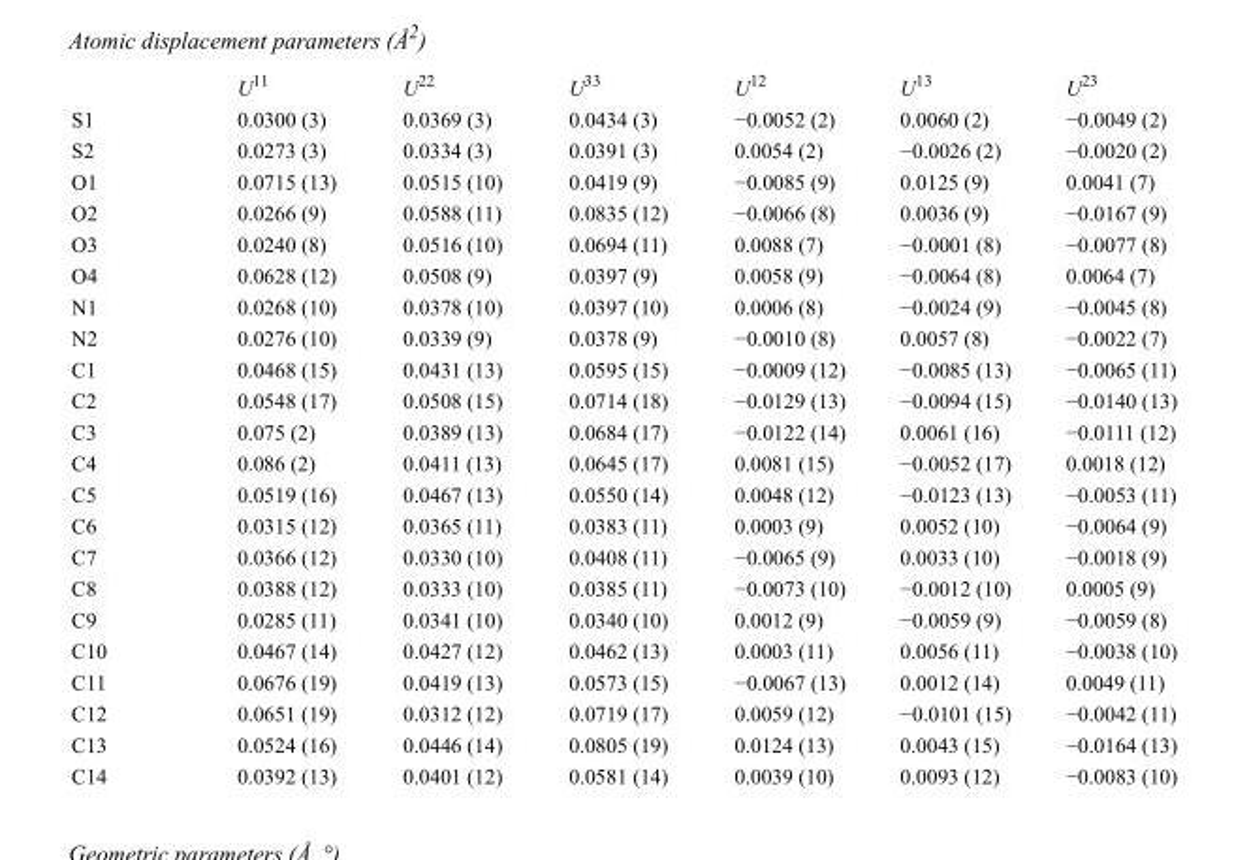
<table><thead><tr><td></td><td>U<sup>11</sup></td><td>U<sup>22</sup></td><td>U<sup>33</sup></td><td>U<sup>12</sup></td><td>U<sup>13</sup></td><td>U<sup>23</sup></td></tr></thead><tbody><tr><td>S1</td><td>0.0300 (3)</td><td>0.0369 (3)</td><td>0.0434 (3)</td><td>−0.0052 (2)</td><td>0.0060 (2)</td><td>−0.0049 (2)</td></tr><tr><td>S2</td><td>0.0273 (3)</td><td>0.0334 (3)</td><td>0.0391 (3)</td><td>0.0054 (2)</td><td>−0.0026 (2)</td><td>−0.0020 (2)</td></tr><tr><td>O1</td><td>0.0715 (13)</td><td>0.0515 (10)</td><td>0.0419 (9)</td><td>−0.0085 (9)</td><td>0.0125 (9)</td><td>0.0041 (7)</td></tr><tr><td>O2</td><td>0.0266 (9)</td><td>0.0588 (11)</td><td>0.0835 (12)</td><td>−0.0066 (8)</td><td>0.0036 (9)</td><td>−0.0167 (9)</td></tr><tr><td>O3</td><td>0.0240 (8)</td><td>0.0516 (10)</td><td>0.0694 (11)</td><td>0.0088 (7)</td><td>−0.0001 (8)</td><td>−0.0077 (8)</td></tr><tr><td>O4</td><td>0.0628 (12)</td><td>0.0508 (9)</td><td>0.0397 (9)</td><td>0.0058 (9)</td><td>−0.0064 (8)</td><td>0.0064 (7)</td></tr><tr><td>N1</td><td>0.0268 (10)</td><td>0.0378 (10)</td><td>0.0397 (10)</td><td>0.0006 (8)</td><td>−0.0024 (9)</td><td>−0.0045 (8)</td></tr><tr><td>N2</td><td>0.0276 (10)</td><td>0.0339 (9)</td><td>0.0378 (9)</td><td>−0.0010 (8)</td><td>0.0057 (8)</td><td>−0.0022 (7)</td></tr><tr><td>C1</td><td>0.0468 (15)</td><td>0.0431 (13)</td><td>0.0595 (15)</td><td>−0.0009 (12)</td><td>−0.0085 (13)</td><td>−0.0065 (11)</td></tr><tr><td>C2</td><td>0.0548 (17)</td><td>0.0508 (15)</td><td>0.0714 (18)</td><td>−0.0129 (13)</td><td>−0.0094 (15)</td><td>−0.0140 (13)</td></tr><tr><td>C3</td><td>0.075 (2)</td><td>0.0389 (13)</td><td>0.0684 (17)</td><td>−0.0122 (14)</td><td>0.0061 (16)</td><td>−0.0111 (12)</td></tr><tr><td>C4</td><td>0.086 (2)</td><td>0.0411 (13)</td><td>0.0645 (17)</td><td>0.0081 (15)</td><td>−0.0052 (17)</td><td>0.0018 (12)</td></tr><tr><td>C5</td><td>0.0519 (16)</td><td>0.0467 (13)</td><td>0.0550 (14)</td><td>0.0048 (12)</td><td>−0.0123 (13)</td><td>−0.0053 (11)</td></tr><tr><td>C6</td><td>0.0315 (12)</td><td>0.0365 (11)</td><td>0.0383 (11)</td><td>0.0003 (9)</td><td>0.0052 (10)</td><td>−0.0064 (9)</td></tr><tr><td>C7</td><td>0.0366 (12)</td><td>0.0330 (10)</td><td>0.0408 (11)</td><td>−0.0065 (9)</td><td>0.0033 (10)</td><td>−0.0018 (9)</td></tr><tr><td>C8</td><td>0.0388 (12)</td><td>0.0333 (10)</td><td>0.0385 (11)</td><td>−0.0073 (10)</td><td>−0.0012 (10)</td><td>0.0005 (9)</td></tr><tr><td>C9</td><td>0.0285 (11)</td><td>0.0341 (10)</td><td>0.0340 (10)</td><td>0.0012 (9)</td><td>−0.0059 (9)</td><td>−0.0059 (8)</td></tr><tr><td>C10</td><td>0.0467 (14)</td><td>0.0427 (12)</td><td>0.0462 (13)</td><td>0.0003 (11)</td><td>0.0056 (11)</td><td>−0.0038 (10)</td></tr><tr><td>C11</td><td>0.0676 (19)</td><td>0.0419 (13)</td><td>0.0573 (15)</td><td>−0.0067 (13)</td><td>0.0012 (14)</td><td>0.0049 (11)</td></tr><tr><td>C12</td><td>0.0651 (19)</td><td>0.0312 (12)</td><td>0.0719 (17)</td><td>0.0059 (12)</td><td>−0.0101 (15)</td><td>−0.0042 (11)</td></tr><tr><td>C13</td><td>0.0524 (16)</td><td>0.0446 (14)</td><td>0.0805 (19)</td><td>0.0124 (13)</td><td>0.0043 (15)</td><td>−0.0164 (13)</td></tr><tr><td>C14</td><td>0.0392 (13)</td><td>0.0401 (12)</td><td>0.0581 (14)</td><td>0.0039 (10)</td><td>0.0093 (12)</td><td>−0.0083 (10)</td></tr></tbody></table>